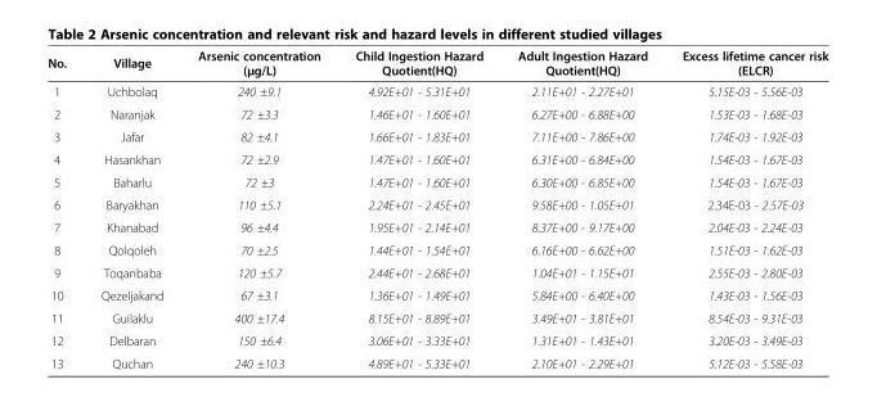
<table><thead><tr><td>No.</td><td>Village</td><td>Arsenic concentration (μg/L)</td><td>Child Ingestion Hazard Quotient(HQ)</td><td>Adult Ingestion Hazard Quotient(HQ)</td><td>Excess lifetime cancer risk (ELCR)</td></tr></thead><tbody><tr><td>1</td><td>Uchbolaq</td><td>240 ±9.1</td><td>4.92E+01 - 5.31E+01</td><td>2.11E+01 - 2.27E+01</td><td>5.15E-03 - 5.56E-03</td></tr><tr><td>2</td><td>Naranjak</td><td>72 ±3.3</td><td>1.46E+01 - 1.60E+01</td><td>6.27E+00 - 6.88E+00</td><td>1.53E-03 - 1.68E-03</td></tr><tr><td>3</td><td>Jafar</td><td>82 ±4.1</td><td>1.66E+01 - 1.83E+01</td><td>7.11E+00 - 7.86E+00</td><td>1.74E-03 - 1.92E-03</td></tr><tr><td>4</td><td>Hasankhan</td><td>72 ±2.9</td><td>1.47E+01 - 1.60E+01</td><td>6.31E+00 - 6.84E+00</td><td>1.54E-03 - 1.67E-03</td></tr><tr><td>5</td><td>Baharlu</td><td>72 ±3</td><td>1.47E+01 - 1.60E+01</td><td>6.30E+00 - 6.85E+00</td><td>1.54E-03 - 1.67E-03</td></tr><tr><td>6</td><td>Baryakhan</td><td>110 ±5.1</td><td>2.24E+01 - 2.45E+01</td><td>9.58E+00 - 1.05E+01</td><td>2.34E-03 - 2.57E-03</td></tr><tr><td>7</td><td>Khanabad</td><td>96 ±4.4</td><td>1.95E+01 - 2.14E+01</td><td>8.37E+00 - 9.17E+00</td><td>2.04E-03 - 2.24E-03</td></tr><tr><td>8</td><td>Qolqoleh</td><td>70 ±2.5</td><td>1.44E+01 - 1.54E+01</td><td>6.16E+00 - 6.62E+00</td><td>1.51E-03 - 1.62E-03</td></tr><tr><td>9</td><td>Toqanbaba</td><td>120 ±5.7</td><td>2.44E+01 - 2.68E+01</td><td>1.04E+01 - 1.15E+01</td><td>2.55E-03 - 2.80E-03</td></tr><tr><td>10</td><td>Qezeljakand</td><td>67 ±3.1</td><td>1.36E+01 - 1.49E+01</td><td>5.84E+00 - 6.40E+00</td><td>1.43E-03 - 1.56E-03</td></tr><tr><td>11</td><td>Guilaklu</td><td>400 ±17.4</td><td>8.15E+01 - 8.89E+01</td><td>3.49E+01 - 3.81E+01</td><td>8.54E-03 - 9.31E-03</td></tr><tr><td>12</td><td>Delbaran</td><td>150 ±6.4</td><td>3.06E+01 - 3.33E+01</td><td>1.31E+01 - 1.43E+01</td><td>3.20E-03 - 3.49E-03</td></tr><tr><td>13</td><td>Quchan</td><td>240 ±10.3</td><td>4.89E+01 - 5.33E+01</td><td>2.10E+01 - 2.29E+01</td><td>5.12E-03 - 5.58E-03</td></tr></tbody></table>